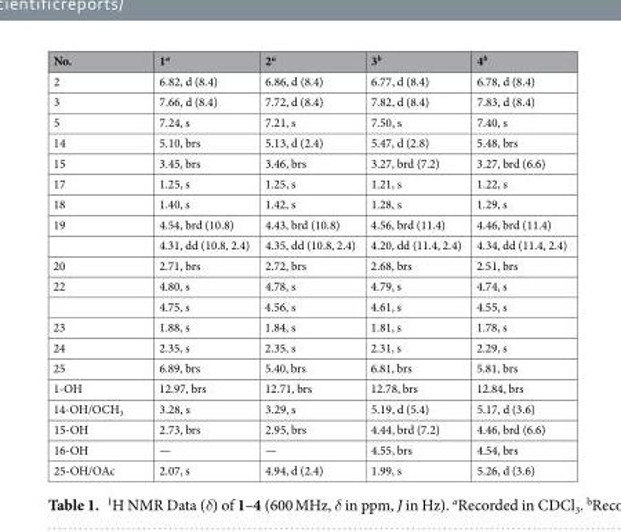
<table><thead><tr><td>No.</td><td>1<sup>a</sup></td><td>2<sup>a</sup></td><td>3<sup>b</sup></td><td>4<sup>b</sup></td></tr></thead><tbody><tr><td>2</td><td>6.82, d (8.4)</td><td>6.86, d (8.4)</td><td>6.77, d (8.4)</td><td>6.78, d (8.4)</td></tr><tr><td>3</td><td>7.66, d (8.4)</td><td>7.72, d (8.4)</td><td>7.82, d (8.4)</td><td>7.83, d (8.4)</td></tr><tr><td>5</td><td>7.24, s</td><td>7.21, s</td><td>7.50, s</td><td>7.40, s</td></tr><tr><td>14</td><td>5.10, brs</td><td>5.13, d (2.4)</td><td>5.47, d (2.8)</td><td>5.48, brs</td></tr><tr><td>15</td><td>3.45, brs</td><td>3.46, brs</td><td>3.27, brd (7.2)</td><td>3.27, brd (6.6)</td></tr><tr><td>17</td><td>1.25, s</td><td>1.25, s</td><td>1.21, s</td><td>1.22, s</td></tr><tr><td>18</td><td>1.40, s</td><td>1.42, s</td><td>1.28, s</td><td>1.29, s</td></tr><tr><td rowspan="2">19</td><td>4.54, brd (10.8)</td><td>4.43, brd (10.8)</td><td>4.56, brd (11.4)</td><td>4.46, brd (11.4)</td></tr><tr><td>4.31, dd (10.8, 2.4)</td><td>4.35, dd (10.8, 2.4)</td><td>4.20, dd (11.4, 2.4)</td><td>4.34, dd (11.4, 2.4)</td></tr><tr><td>20</td><td>2.71, brs</td><td>2.72, brs</td><td>2.68, brs</td><td>2.51, brs</td></tr><tr><td rowspan="2">22</td><td>4.80, s</td><td>4.78, s</td><td>4.79, s</td><td>4.74, s</td></tr><tr><td>4.75, s</td><td>4.56, s</td><td>4.61, s</td><td>4.55, s</td></tr><tr><td>23</td><td>1.88, s</td><td>1.84, s</td><td>1.81, s</td><td>1.78, s</td></tr><tr><td>24</td><td>2.35, s</td><td>2.35, s</td><td>2.31, s</td><td>2.29, s</td></tr><tr><td>25</td><td>6.89, brs</td><td>5.40, brs</td><td>6.81, brs</td><td>5.81, brs</td></tr><tr><td>1-OH</td><td>12.97, brs</td><td>12.71, brs</td><td>12.78, brs</td><td>12.84, brs</td></tr><tr><td>14-OH/OCH<sub>3</sub></td><td>3.28, s</td><td>3.29, s</td><td>5.19, d (5.4)</td><td>5.17, d (3.6)</td></tr><tr><td>15-OH</td><td>2.73, brs</td><td>2.95, brs</td><td>4.44, brd (7.2)</td><td>4.46, brd (6.6)</td></tr><tr><td>16-OH</td><td>—</td><td>—</td><td>4.55, brs</td><td>4.54, brs</td></tr><tr><td>25-OH/OAc</td><td>2.07, s</td><td>4.94, d (2.4)</td><td>1.99, s</td><td>5.26, d (3.6)</td></tr></tbody></table>